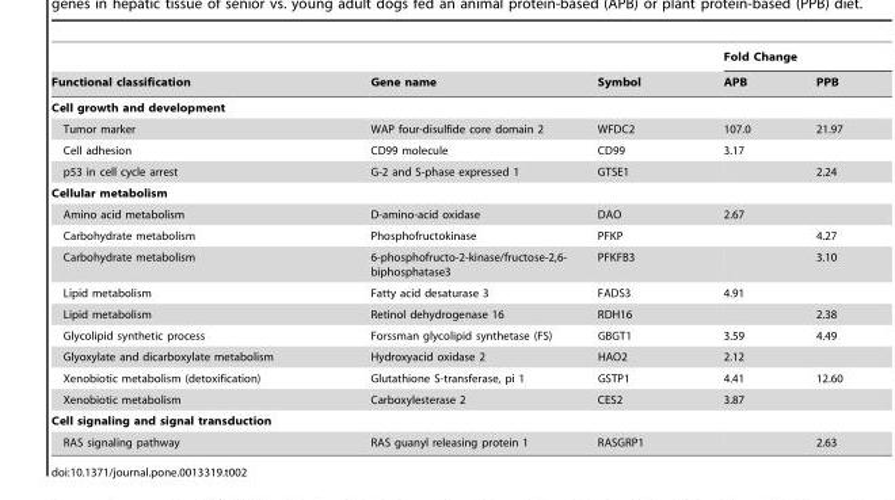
<table><thead><tr><td rowspan="2">Functional classification</td><td rowspan="2">Gene name</td><td rowspan="2">Symbol</td><td colspan="2">Fold Change</td></tr><tr><td>APB</td><td>PPB</td></tr></thead><tbody><tr><td colspan="5">Cell growth and development</td></tr><tr><td>Tumor marker</td><td>WAP four-disulfide core domain 2</td><td>WFDC2</td><td>107.0</td><td>21.97</td></tr><tr><td>Cell adhesion</td><td>CD99 molecule</td><td>CD99</td><td>3.17</td><td></td></tr><tr><td>p53 in cell cycle arrest</td><td>G-2 and S-phase expressed 1</td><td>GTSE1</td><td></td><td>2.24</td></tr><tr><td colspan="5">Cellular metabolism</td></tr><tr><td>Amino acid metabolism</td><td>D-amino-acid oxidase</td><td>DAO</td><td>2.67</td><td></td></tr><tr><td>Carbohydrate metabolism</td><td>Phosphofructokinase</td><td>PFKP</td><td></td><td>4.27</td></tr><tr><td>Carbohydrate metabolism</td><td>6-phosphofructo-2-kinase/fructose-2,6- biphosphatase3</td><td>PFKFB3</td><td></td><td>3.10</td></tr><tr><td>Lipid metabolism</td><td>Fatty acid desaturase 3</td><td>FADS3</td><td>4.91</td><td></td></tr><tr><td>Lipid metabolism</td><td>Retinol dehydrogenase 16</td><td>RDH16</td><td></td><td>2.38</td></tr><tr><td>Glycolipid synthetic process</td><td>Forssman glycolipid synthetase (FS)</td><td>GBGT1</td><td>3.59</td><td>4.49</td></tr><tr><td>Glyoxylate and dicarboxylate metabolism</td><td>Hydroxyacid oxidase 2</td><td>HAO2</td><td>2.12</td><td></td></tr><tr><td>Xenobiotic metabolism (detoxification)</td><td>Glutathione S-transferase, pi 1</td><td>GSTP1</td><td>4.41</td><td>12.60</td></tr><tr><td>Xenobiotic metabolism</td><td>Carboxylesterase 2</td><td>CES2</td><td>3.87</td><td></td></tr><tr><td colspan="5">Cell signaling and signal transduction</td></tr><tr><td>RAS signaling pathway</td><td>RAS guanyl releasing protein 1</td><td>RASGRP1</td><td></td><td>2.63</td></tr></tbody></table>